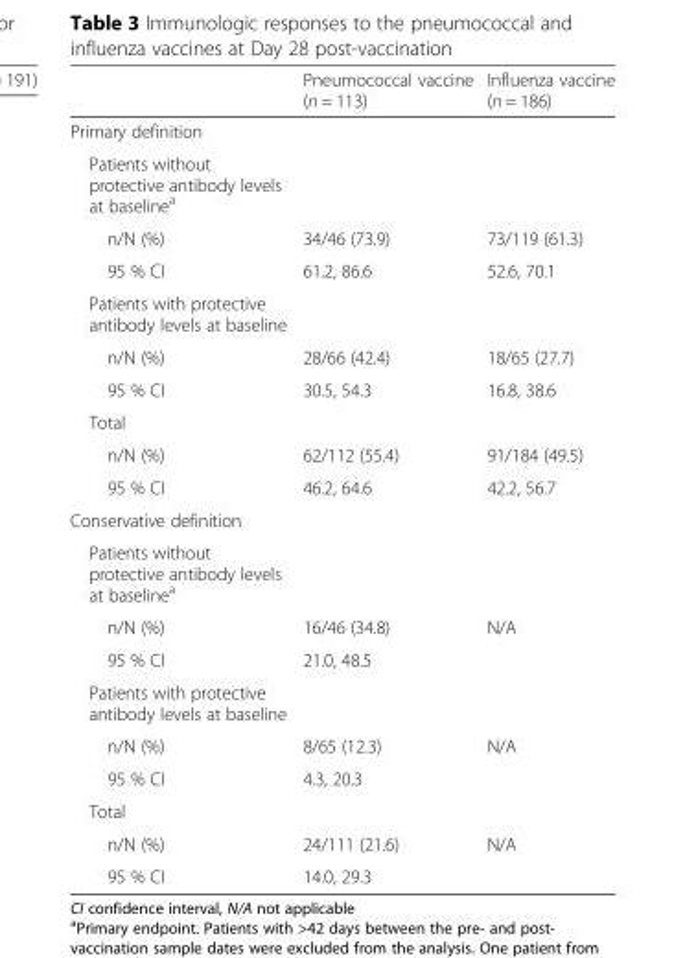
<table><thead><tr><td></td><td>Pneumococcal vaccine (n = 113)</td><td>Influenza vaccine (n = 186)</td></tr></thead><tbody><tr><td colspan="3">Primary definition</td></tr><tr><td colspan="3">Patients without protective antibody levels at baseline<sup>a</sup></td></tr><tr><td>n/N (%)</td><td>34/46 (73.9)</td><td>73/119 (61.3)</td></tr><tr><td>95 % CI</td><td>61.2, 86.6</td><td>52.6, 70.1</td></tr><tr><td colspan="3">Patients with protective antibody levels at baseline</td></tr><tr><td>n/N (%)</td><td>28/66 (42.4)</td><td>18/65 (27.7)</td></tr><tr><td>95 % CI</td><td>30.5, 54.3</td><td>16.8, 38.6</td></tr><tr><td colspan="3">Total</td></tr><tr><td>n/N (%)</td><td>62/112 (55.4)</td><td>91/184 (49.5)</td></tr><tr><td>95 % CI</td><td>46.2, 64.6</td><td>42.2, 56.7</td></tr><tr><td colspan="3">Conservative definition</td></tr><tr><td colspan="3">Patients without protective antibody levels at baseline<sup>a</sup></td></tr><tr><td>n/N (%)</td><td>16/46 (34.8)</td><td rowspan="2">N/A</td></tr><tr><td>95 % CI</td><td>21.0, 48.5</td></tr><tr><td colspan="3">Patients with protective antibody levels at baseline</td></tr><tr><td>n/N (%)</td><td>8/65 (12.3)</td><td rowspan="2">N/A</td></tr><tr><td>95 % CI</td><td>4.3, 20.3</td></tr><tr><td colspan="3">Total</td></tr><tr><td>n/N (%)</td><td>24/111 (21.6)</td><td rowspan="2">N/A</td></tr><tr><td>95 % CI</td><td>14.0, 29.3</td></tr></tbody></table>